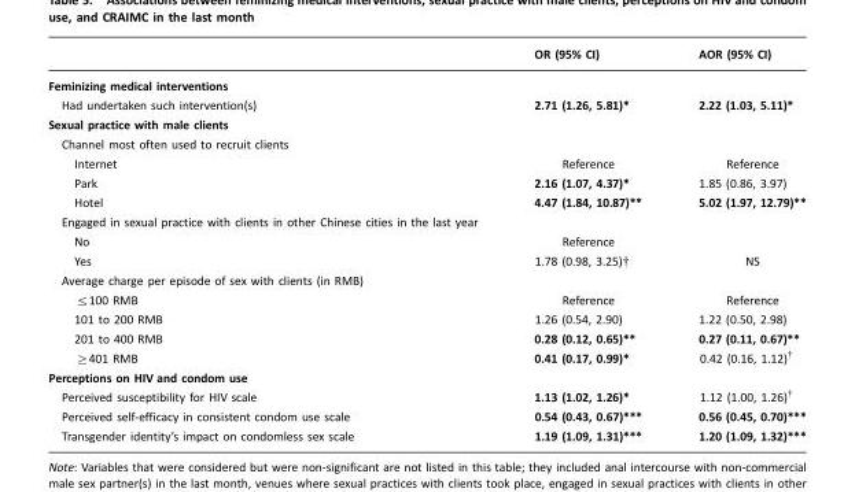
<table><thead><tr><td></td><td>OR (95% CI)</td><td>AOR (95% CI)</td></tr></thead><tbody><tr><td colspan="3">Feminizing medical interventions</td></tr><tr><td>Had undertaken such intervention(s)</td><td>2.71 (1.26, 5.81)*</td><td>2.22 (1.03, 5.11)*</td></tr><tr><td colspan="3">Sexual practice with male clients</td></tr><tr><td colspan="3">Channel most often used to recruit clients</td></tr><tr><td>Internet</td><td>Reference</td><td>Reference</td></tr><tr><td>Park</td><td>2.16 (1.07, 4.37)*</td><td>1.85 (0.86, 3.97)</td></tr><tr><td>Hotel</td><td>4.47 (1.84, 10.87)**</td><td>5.02 (1.97, 12.79)**</td></tr><tr><td colspan="3">Engaged in sexual practice with clients in other Chinese cities in the last year</td></tr><tr><td>No</td><td>Reference</td><td></td></tr><tr><td>Yes</td><td>1.78 (0.98, 3.25)†</td><td>NS</td></tr><tr><td colspan="3">Average charge per episode of sex with clients (in RMB)</td></tr><tr><td>≤100 RMB</td><td>Reference</td><td>Reference</td></tr><tr><td>101 to 200 RMB</td><td>1.26 (0.54, 2.90)</td><td>1.22 (0.50, 2.98)</td></tr><tr><td>201 to 400 RMB</td><td>0.28 (0.12, 0.65)**</td><td>0.27 (0.11, 0.67)**</td></tr><tr><td>≥401 RMB</td><td>0.41 (0.17, 0.99)*</td><td>0.42 (0.16, 1.12)†</td></tr><tr><td colspan="3">Perceptions on HIV and condom use</td></tr><tr><td>Perceived susceptibility for HIV scale</td><td>1.13 (1.02, 1.26)*</td><td>1.12 (1.00, 1.26)†</td></tr><tr><td>Perceived self-efficacy in consistent condom use scale</td><td>0.54 (0.43, 0.67)***</td><td>0.56 (0.45, 0.70)***</td></tr><tr><td>Transgender identity’s impact on condomless sex scale</td><td>1.19 (1.09, 1.31)***</td><td>1.20 (1.09, 1.32)***</td></tr></tbody></table>